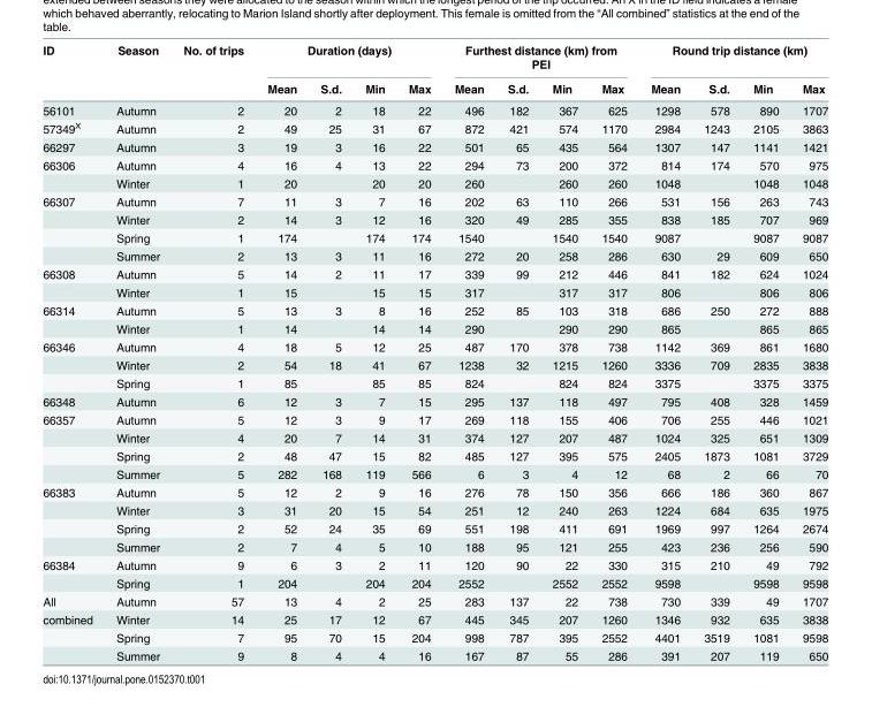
<table><thead><tr><td rowspan="2">ID</td><td rowspan="2">Season</td><td rowspan="2">No. of trips</td><td colspan="4">Duration (days)</td><td colspan="4">Furthest distance (km) from PEI</td><td colspan="4">Round trip distance (km)</td></tr><tr><td>Mean</td><td>S.d.</td><td>Min</td><td>Max</td><td>Mean</td><td>S.d.</td><td>Min</td><td>Max</td><td>Mean</td><td>S.d.</td><td>Min</td><td>Max</td></tr></thead><tbody><tr><td>56101</td><td>Autumn</td><td>2</td><td>20</td><td>2</td><td>18</td><td>22</td><td>496</td><td>182</td><td>367</td><td>625</td><td>1298</td><td>578</td><td>890</td><td>1707</td></tr><tr><td>57349<sup>X</sup></td><td>Autumn</td><td>2</td><td>49</td><td>25</td><td>31</td><td>67</td><td>872</td><td>421</td><td>574</td><td>1170</td><td>2984</td><td>1243</td><td>2105</td><td>3863</td></tr><tr><td>66297</td><td>Autumn</td><td>3</td><td>19</td><td>3</td><td>16</td><td>22</td><td>501</td><td>65</td><td>435</td><td>564</td><td>1307</td><td>147</td><td>1141</td><td>1421</td></tr><tr><td rowspan="2">66306</td><td>Autumn</td><td>4</td><td>16</td><td>4</td><td>13</td><td>22</td><td>294</td><td>73</td><td>200</td><td>372</td><td>814</td><td>174</td><td>570</td><td>975</td></tr><tr><td>Winter</td><td>1</td><td>20</td><td></td><td>20</td><td>20</td><td>260</td><td></td><td>260</td><td>260</td><td>1048</td><td></td><td>1048</td><td>1048</td></tr><tr><td rowspan="4">66307</td><td>Autumn</td><td>7</td><td>11</td><td>3</td><td>7</td><td>16</td><td>202</td><td>63</td><td>110</td><td>266</td><td>531</td><td>156</td><td>263</td><td>743</td></tr><tr><td>Winter</td><td>2</td><td>14</td><td>3</td><td>12</td><td>16</td><td>320</td><td>49</td><td>285</td><td>355</td><td>838</td><td>185</td><td>707</td><td>969</td></tr><tr><td>Spring</td><td>1</td><td>174</td><td></td><td>174</td><td>174</td><td>1540</td><td></td><td>1540</td><td>1540</td><td>9087</td><td></td><td>9087</td><td>9087</td></tr><tr><td>Summer</td><td>2</td><td>13</td><td>3</td><td>11</td><td>16</td><td>272</td><td>20</td><td>258</td><td>286</td><td>630</td><td>29</td><td>609</td><td>650</td></tr><tr><td rowspan="2">66308</td><td>Autumn</td><td>5</td><td>14</td><td>2</td><td>11</td><td>17</td><td>339</td><td>99</td><td>212</td><td>446</td><td>841</td><td>182</td><td>624</td><td>1024</td></tr><tr><td>Winter</td><td>1</td><td>15</td><td></td><td>15</td><td>15</td><td>317</td><td></td><td>317</td><td>317</td><td>806</td><td></td><td>806</td><td>806</td></tr><tr><td rowspan="2">66314</td><td>Autumn</td><td>5</td><td>13</td><td>3</td><td>8</td><td>16</td><td>252</td><td>85</td><td>103</td><td>318</td><td>686</td><td>250</td><td>272</td><td>888</td></tr><tr><td>Winter</td><td>1</td><td>14</td><td></td><td>14</td><td>14</td><td>290</td><td></td><td>290</td><td>290</td><td>865</td><td></td><td>865</td><td>865</td></tr><tr><td rowspan="3">66346</td><td>Autumn</td><td>4</td><td>18</td><td>5</td><td>12</td><td>25</td><td>487</td><td>170</td><td>378</td><td>738</td><td>1142</td><td>369</td><td>861</td><td>1680</td></tr><tr><td>Winter</td><td>2</td><td>54</td><td>18</td><td>41</td><td>67</td><td>1238</td><td>32</td><td>1215</td><td>1260</td><td>3336</td><td>709</td><td>2835</td><td>3838</td></tr><tr><td>Spring</td><td>1</td><td>85</td><td></td><td>85</td><td>85</td><td>824</td><td></td><td>824</td><td>824</td><td>3375</td><td></td><td>3375</td><td>3375</td></tr><tr><td>66348</td><td>Autumn</td><td>6</td><td>12</td><td>3</td><td>7</td><td>15</td><td>295</td><td>137</td><td>118</td><td>497</td><td>795</td><td>408</td><td>328</td><td>1459</td></tr><tr><td rowspan="4">66357</td><td>Autumn</td><td>5</td><td>12</td><td>3</td><td>9</td><td>17</td><td>269</td><td>118</td><td>155</td><td>406</td><td>706</td><td>255</td><td>446</td><td>1021</td></tr><tr><td>Winter</td><td>4</td><td>20</td><td>7</td><td>14</td><td>31</td><td>374</td><td>127</td><td>207</td><td>487</td><td>1024</td><td>325</td><td>651</td><td>1309</td></tr><tr><td>Spring</td><td>2</td><td>48</td><td>47</td><td>15</td><td>82</td><td>485</td><td>127</td><td>395</td><td>575</td><td>2405</td><td>1873</td><td>1081</td><td>3729</td></tr><tr><td>Summer</td><td>5</td><td>282</td><td>168</td><td>119</td><td>566</td><td>6</td><td>3</td><td>4</td><td>12</td><td>68</td><td>2</td><td>66</td><td>70</td></tr><tr><td rowspan="4">66383</td><td>Autumn</td><td>5</td><td>12</td><td>2</td><td>9</td><td>16</td><td>276</td><td>78</td><td>150</td><td>356</td><td>666</td><td>186</td><td>360</td><td>867</td></tr><tr><td>Winter</td><td>3</td><td>31</td><td>20</td><td>15</td><td>54</td><td>251</td><td>12</td><td>240</td><td>263</td><td>1224</td><td>684</td><td>635</td><td>1975</td></tr><tr><td>Spring</td><td>2</td><td>52</td><td>24</td><td>35</td><td>69</td><td>551</td><td>198</td><td>411</td><td>691</td><td>1969</td><td>997</td><td>1264</td><td>2674</td></tr><tr><td>Summer</td><td>2</td><td>7</td><td>4</td><td>5</td><td>10</td><td>188</td><td>95</td><td>121</td><td>255</td><td>423</td><td>236</td><td>256</td><td>590</td></tr><tr><td rowspan="2">66384</td><td>Autumn</td><td>9</td><td>6</td><td>3</td><td>2</td><td>11</td><td>120</td><td>90</td><td>22</td><td>330</td><td>315</td><td>210</td><td>49</td><td>792</td></tr><tr><td>Spring</td><td>1</td><td>204</td><td></td><td>204</td><td>204</td><td>2552</td><td></td><td>2552</td><td>2552</td><td>9598</td><td></td><td>9598</td><td>9598</td></tr><tr><td>All</td><td>Autumn</td><td>57</td><td>13</td><td>4</td><td>2</td><td>25</td><td>283</td><td>137</td><td>22</td><td>738</td><td>730</td><td>339</td><td>49</td><td>1707</td></tr><tr><td rowspan="3">combined</td><td>Winter</td><td>14</td><td>25</td><td>17</td><td>12</td><td>67</td><td>445</td><td>345</td><td>207</td><td>1260</td><td>1346</td><td>932</td><td>635</td><td>3838</td></tr><tr><td>Spring</td><td>7</td><td>95</td><td>70</td><td>15</td><td>204</td><td>998</td><td>787</td><td>395</td><td>2552</td><td>4401</td><td>3519</td><td>1081</td><td>9598</td></tr><tr><td>Summer</td><td>9</td><td>8</td><td>4</td><td>4</td><td>16</td><td>167</td><td>87</td><td>55</td><td>286</td><td>391</td><td>207</td><td>119</td><td>650</td></tr></tbody></table>